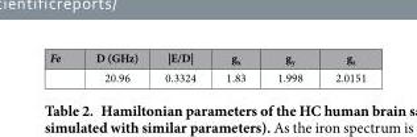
<table><thead><tr><td>Fe</td><td>D (GHz)</td><td>|E/D|</td><td>g<sub>x</sub></td><td>g<sub>y</sub></td><td>g<sub>z</sub></td></tr></thead><tbody><tr><td></td><td>20.96</td><td>0.3324</td><td>1.83</td><td>1.998</td><td>2.0151</td></tr></tbody></table>